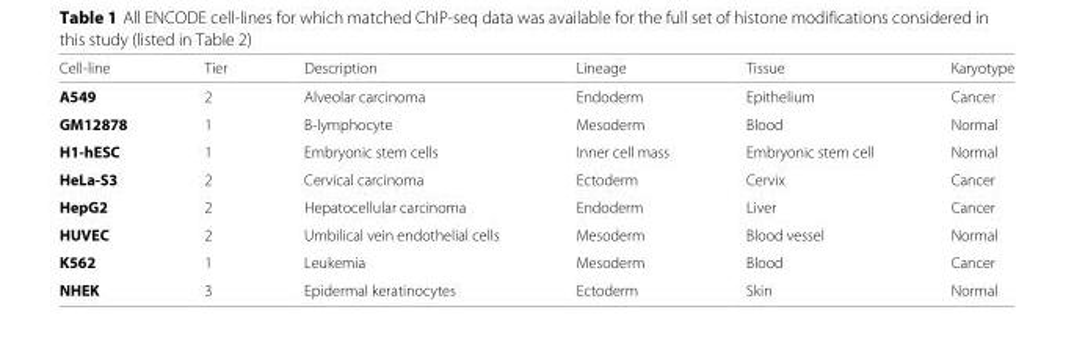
<table><thead><tr><td>Cell-line</td><td>Tier</td><td>Description</td><td>Lineage</td><td>Tissue</td><td>Karyotype</td></tr></thead><tbody><tr><td>A549</td><td>2</td><td>Alveolar carcinoma</td><td>Endoderm</td><td>Epithelium</td><td>Cancer</td></tr><tr><td>GM12878</td><td>1</td><td>B-lymphocyte</td><td>Mesoderm</td><td>Blood</td><td>Normal</td></tr><tr><td>H1-hESC</td><td>1</td><td>Embryonic stem cells</td><td>Inner cell mass</td><td>Embryonic stem cell</td><td>Normal</td></tr><tr><td>HeLa-S3</td><td>2</td><td>Cervical carcinoma</td><td>Ectoderm</td><td>Cervix</td><td>Cancer</td></tr><tr><td>HepG2</td><td>2</td><td>Hepatocellular carcinoma</td><td>Endoderm</td><td>Liver</td><td>Cancer</td></tr><tr><td>HUVEC</td><td>2</td><td>Umbilical vein endothelial cells</td><td>Mesoderm</td><td>Blood vessel</td><td>Normal</td></tr><tr><td>K562</td><td>1</td><td>Leukemia</td><td>Mesoderm</td><td>Blood</td><td>Cancer</td></tr><tr><td>NHEK</td><td>3</td><td>Epidermal keratinocytes</td><td>Ectoderm</td><td>Skin</td><td>Normal</td></tr></tbody></table>